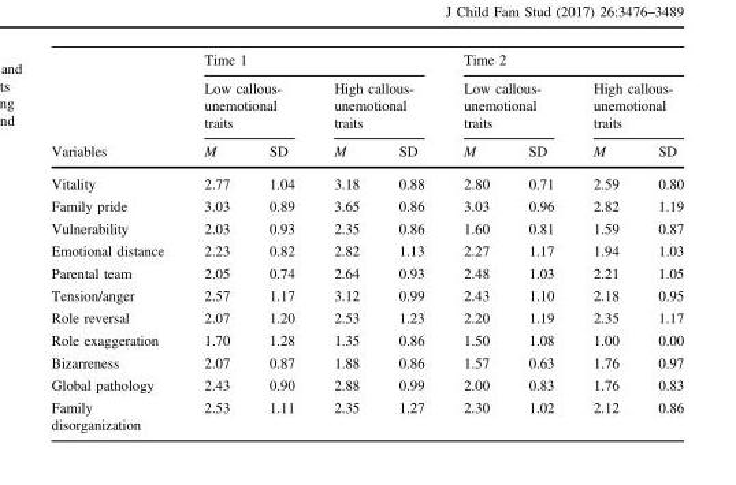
<table><thead><tr><td rowspan="3">Variables</td><td colspan="4">Time 1</td><td colspan="4">Time 2</td></tr><tr><td colspan="2">Low callous- unemotional traits</td><td colspan="2">High callous- unemotional traits</td><td colspan="2">Low callous- unemotional traits</td><td colspan="2">High callous- unemotional traits</td></tr><tr><td>M</td><td>SD</td><td>M</td><td>SD</td><td>M</td><td>SD</td><td>M</td><td>SD</td></tr></thead><tbody><tr><td>Vitality</td><td>2.77</td><td>1.04</td><td>3.18</td><td>0.88</td><td>2.80</td><td>0.71</td><td>2.59</td><td>0.80</td></tr><tr><td>Family pride</td><td>3.03</td><td>0.89</td><td>3.65</td><td>0.86</td><td>3.03</td><td>0.96</td><td>2.82</td><td>1.19</td></tr><tr><td>Vulnerability</td><td>2.03</td><td>0.93</td><td>2.35</td><td>0.86</td><td>1.60</td><td>0.81</td><td>1.59</td><td>0.87</td></tr><tr><td>Emotional distance</td><td>2.23</td><td>0.82</td><td>2.82</td><td>1.13</td><td>2.27</td><td>1.17</td><td>1.94</td><td>1.03</td></tr><tr><td>Parental team</td><td>2.05</td><td>0.74</td><td>2.64</td><td>0.93</td><td>2.48</td><td>1.03</td><td>2.21</td><td>1.05</td></tr><tr><td>Tension/anger</td><td>2.57</td><td>1.17</td><td>3.12</td><td>0.99</td><td>2.43</td><td>1.10</td><td>2.18</td><td>0.95</td></tr><tr><td>Role reversal</td><td>2.07</td><td>1.20</td><td>2.53</td><td>1.23</td><td>2.20</td><td>1.19</td><td>2.35</td><td>1.17</td></tr><tr><td>Role exaggeration</td><td>1.70</td><td>1.28</td><td>1.35</td><td>0.86</td><td>1.50</td><td>1.08</td><td>1.00</td><td>0.00</td></tr><tr><td>Bizarreness</td><td>2.07</td><td>0.87</td><td>1.88</td><td>0.86</td><td>1.57</td><td>0.63</td><td>1.76</td><td>0.97</td></tr><tr><td>Global pathology</td><td>2.43</td><td>0.90</td><td>2.88</td><td>0.99</td><td>2.00</td><td>0.83</td><td>1.76</td><td>0.83</td></tr><tr><td>Family disorganization</td><td>2.53</td><td>1.11</td><td>2.35</td><td>1.27</td><td>2.30</td><td>1.02</td><td>2.12</td><td>0.86</td></tr></tbody></table>